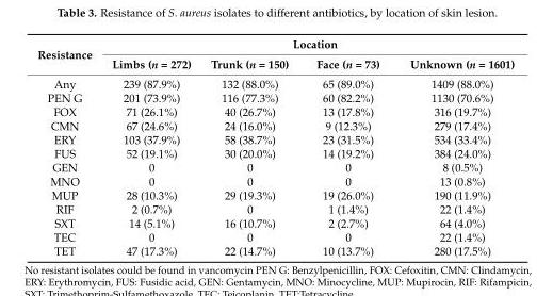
<table><thead><tr><td rowspan="2">Resistance</td><td colspan="4">Location</td></tr><tr><td>Limbs (n = 272)</td><td>Trunk (n = 150)</td><td>Face (n = 73)</td><td>Unknown (n = 1601)</td></tr></thead><tbody><tr><td>Any</td><td>239 (87.9%)</td><td>132 (88.0%)</td><td>65 (89.0%)</td><td>1409 (88.0%)</td></tr><tr><td>PEN G</td><td>201 (73.9%)</td><td>116 (77.3%)</td><td>60 (82.2%)</td><td>1130 (70.6%)</td></tr><tr><td>FOX</td><td>71 (26.1%)</td><td>40 (26.7%)</td><td>13 (17.8%)</td><td>316 (19.7%)</td></tr><tr><td>CMN</td><td>67 (24.6%)</td><td>24 (16.0%)</td><td>9 (12.3%)</td><td>279 (17.4%)</td></tr><tr><td>ERY</td><td>103 (37.9%)</td><td>58 (38.7%)</td><td>23 (31.5%)</td><td>534 (33.4%)</td></tr><tr><td>FUS</td><td>52 (19.1%)</td><td>30 (20.0%)</td><td>14 (19.2%)</td><td>384 (24.0%)</td></tr><tr><td>GEN</td><td>0</td><td>0</td><td>0</td><td>8 (0.5%)</td></tr><tr><td>MNO</td><td>0</td><td>0</td><td>0</td><td>13 (0.8%)</td></tr><tr><td>MUP</td><td>28 (10.3%)</td><td>29 (19.3%)</td><td>19 (26.0%)</td><td>190 (11.9%)</td></tr><tr><td>RIF</td><td>2 (0.7%)</td><td>0</td><td>1 (1.4%)</td><td>22 (1.4%)</td></tr><tr><td>SXT</td><td>14 (5.1%)</td><td>16 (10.7%)</td><td>2 (2.7%)</td><td>64 (4.0%)</td></tr><tr><td>TEC</td><td>0</td><td>0</td><td>0</td><td>22 (1.4%)</td></tr><tr><td>TET</td><td>47 (17.3%)</td><td>22 (14.7%)</td><td>10 (13.7%)</td><td>280 (17.5%)</td></tr></tbody></table>